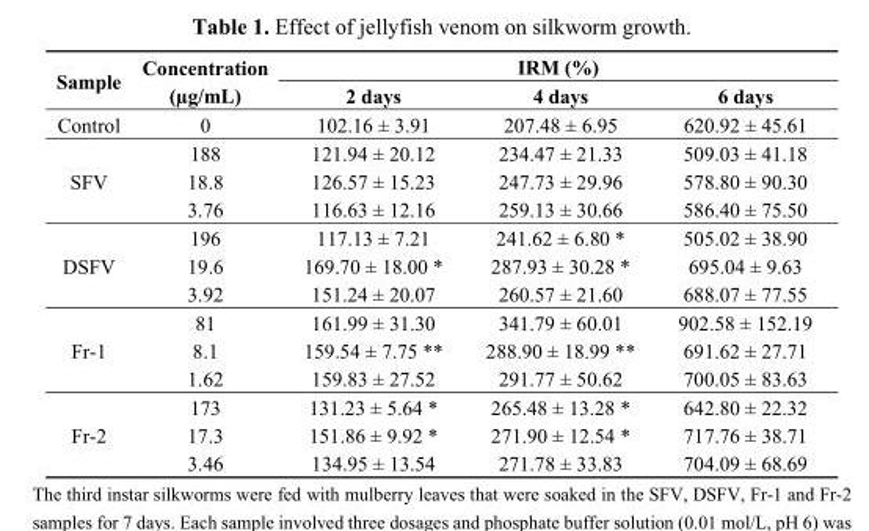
<table><thead><tr><td rowspan="2">Sample</td><td rowspan="2">Concentration (µg/mL)</td><td colspan="3">IRM (%)</td></tr><tr><td>2 days</td><td>4 days</td><td>6 days</td></tr></thead><tbody><tr><td>Control</td><td>0</td><td>102.16 ± 3.91</td><td>207.48 ± 6.95</td><td>620.92 ± 45.61</td></tr><tr><td rowspan="3">SFV</td><td>188</td><td>121.94 ± 20.12</td><td>234.47 ± 21.33</td><td>509.03 ± 41.18</td></tr><tr><td>18.8</td><td>126.57 ± 15.23</td><td>247.73 ± 29.96</td><td>578.80 ± 90.30</td></tr><tr><td>3.76</td><td>116.63 ± 12.16</td><td>259.13 ± 30.66</td><td>586.40 ± 75.50</td></tr><tr><td rowspan="3">DSFV</td><td>196</td><td>117.13 ± 7.21</td><td>241.62 ± 6.80 *</td><td>505.02 ± 38.90</td></tr><tr><td>19.6</td><td>169.70 ± 18.00 *</td><td>287.93 ± 30.28 *</td><td>695.04 ± 9.63</td></tr><tr><td>3.92</td><td>151.24 ± 20.07</td><td>260.57 ± 21.60</td><td>688.07 ± 77.55</td></tr><tr><td rowspan="3">Fr-1</td><td>81</td><td>161.99 ± 31.30</td><td>341.79 ± 60.01</td><td>902.58 ± 152.19</td></tr><tr><td>8.1</td><td>159.54 ± 7.75 **</td><td>288.90 ± 18.99 **</td><td>691.62 ± 27.71</td></tr><tr><td>1.62</td><td>159.83 ± 27.52</td><td>291.77 ± 50.62</td><td>700.05 ± 83.63</td></tr><tr><td rowspan="3">Fr-2</td><td>173</td><td>131.23 ± 5.64 *</td><td>265.48 ± 13.28 *</td><td>642.80 ± 22.32</td></tr><tr><td>17.3</td><td>151.86 ± 9.92 *</td><td>271.90 ± 12.54 *</td><td>717.76 ± 38.71</td></tr><tr><td>3.46</td><td>134.95 ± 13.54</td><td>271.78 ± 33.83</td><td>704.09 ± 68.69</td></tr></tbody></table>